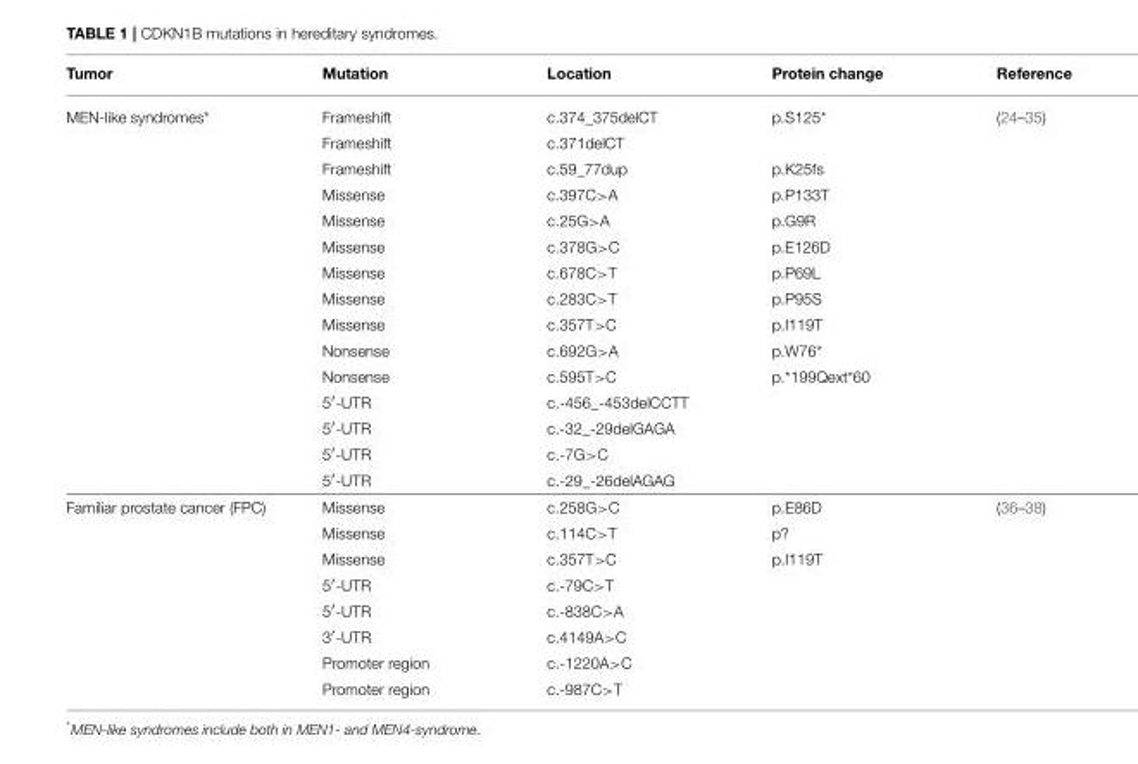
<table><thead><tr><td>Tumor</td><td>Mutation</td><td>Location</td><td>Protein change</td><td>Reference</td></tr></thead><tbody><tr><td rowspan="15">MEN-like syndromes*</td><td>Frameshift</td><td>c.374_375delCT</td><td>p.S125*</td><td>(24–35)</td></tr><tr><td>Frameshift</td><td>c.371delCT</td><td></td><td></td></tr><tr><td>Frameshift</td><td>c.59_77dup</td><td>p.K25fs</td><td></td></tr><tr><td>Missense</td><td>c.397C&gt;A</td><td>p.P133T</td><td></td></tr><tr><td>Missense</td><td>c.25G&gt;A</td><td>p.G9R</td><td></td></tr><tr><td>Missense</td><td>c.378G&gt;C</td><td>p.E126D</td><td></td></tr><tr><td>Missense</td><td>c.678C&gt;T</td><td>p.P69L</td><td></td></tr><tr><td>Missense</td><td>c.283C&gt;T</td><td>p.P95S</td><td></td></tr><tr><td>Missense</td><td>c.357T&gt;C</td><td>p.I119T</td><td></td></tr><tr><td>Nonsense</td><td>c.692G&gt;A</td><td>p.W76*</td><td></td></tr><tr><td>Nonsense</td><td>c.595T&gt;C</td><td>p.*199Qext*60</td><td></td></tr><tr><td>5′-UTR</td><td>c.-456_-453delCCTT</td><td></td><td></td></tr><tr><td>5′-UTR</td><td>c.-32_-29delGAGA</td><td></td><td></td></tr><tr><td>5′-UTR</td><td>c.-7G&gt;C</td><td></td><td></td></tr><tr><td>5′-UTR</td><td>c.-29_-26delAGAG</td><td></td><td></td></tr><tr><td rowspan="8">Familiar prostate cancer (FPC)</td><td>Missense</td><td>c.258G&gt;C</td><td>p.E86D</td><td>(36–38)</td></tr><tr><td>Missense</td><td>c.114C&gt;T</td><td>p?</td><td></td></tr><tr><td>Missense</td><td>c.357T&gt;C</td><td>p.I119T</td><td></td></tr><tr><td>5′-UTR</td><td>c.-79C&gt;T</td><td></td><td></td></tr><tr><td>5′-UTR</td><td>c.-838C&gt;A</td><td></td><td></td></tr><tr><td>3′-UTR</td><td>c.4149A&gt;C</td><td></td><td></td></tr><tr><td>Promoter region</td><td>c.-1220A&gt;C</td><td></td><td></td></tr><tr><td>Promoter region</td><td>c.-987C&gt;T</td><td></td><td></td></tr></tbody></table>